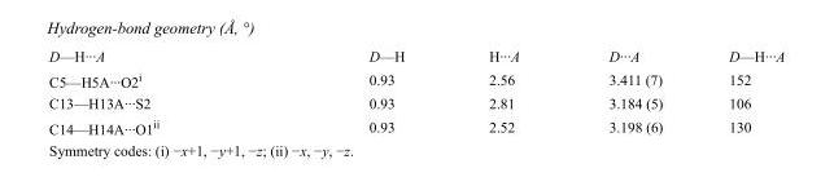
<table><tbody><tr><td>D—H···A</td><td>D—H</td><td>H···A</td><td>D···A</td><td>D—H···A</td></tr><tr><td>C5—H5A···O2<sup>i</sup></td><td>0.93</td><td>2.56</td><td>3.411 (7)</td><td>152</td></tr><tr><td>C13—H13A···S2</td><td>0.93</td><td>2.81</td><td>3.184 (5)</td><td>106</td></tr><tr><td>C14—H14A···O1<sup>ii</sup></td><td>0.93</td><td>2.52</td><td>3.198 (6)</td><td>130</td></tr></tbody></table>